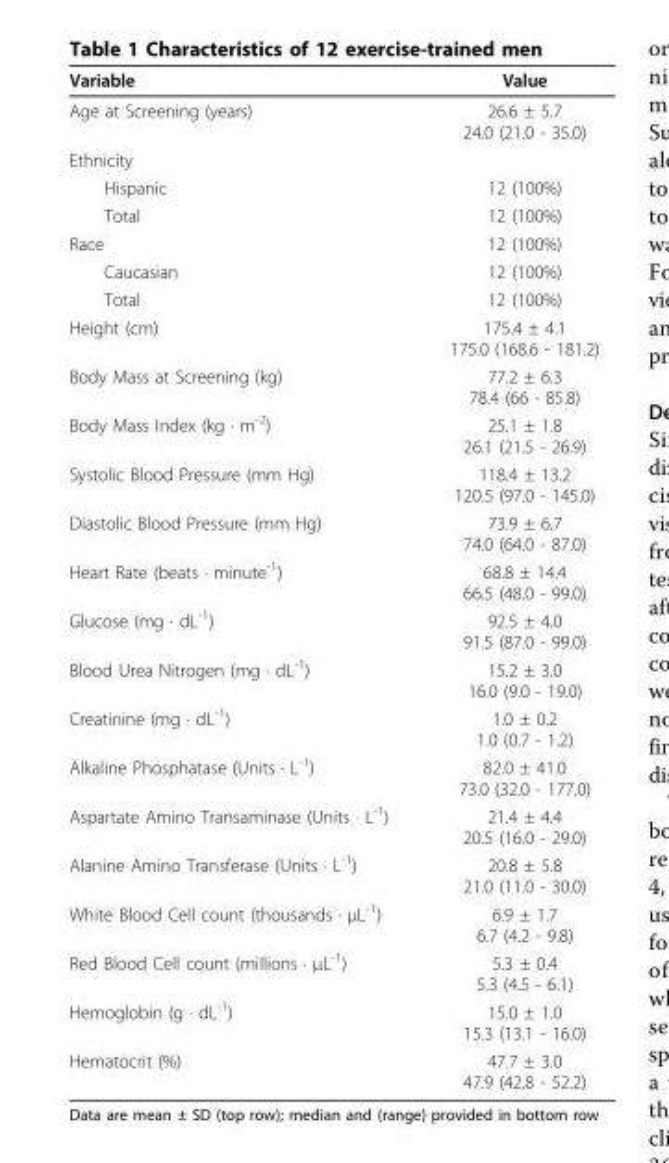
<table><thead><tr><td>Variable</td><td>Value</td></tr></thead><tbody><tr><td>Age at Screening (years)</td><td>26.6 ± 5.7 24.0 (21.0 - 35.0)</td></tr><tr><td colspan="2">Ethnicity</td></tr><tr><td>Hispanic</td><td>12 (100%)</td></tr><tr><td>Total</td><td>12 (100%)</td></tr><tr><td>Race</td><td>12 (100%)</td></tr><tr><td>Caucasian</td><td>12 (100%)</td></tr><tr><td>Total</td><td>12 (100%)</td></tr><tr><td>Height (cm)</td><td>175.4 ± 4.1 175.0 (168.6 - 181.2)</td></tr><tr><td>Body Mass at Screening (kg)</td><td>77.2 ± 6.3 78.4 (66 - 85.8)</td></tr><tr><td>Body Mass Index (kg ∙ m<sup>-2</sup>)</td><td>25.1 ± 1.8 26.1 (21.5 - 26.9)</td></tr><tr><td>Systolic Blood Pressure (mm Hg)</td><td>118.4 ± 13.2 120.5 (97.0 - 145.0)</td></tr><tr><td>Diastolic Blood Pressure (mm Hg)</td><td>73.9 ± 6.7 74.0 (64.0 - 87.0)</td></tr><tr><td>Heart Rate (beats ∙ minute<sup>-1</sup>)</td><td>68.8 ± 14.4 66.5 (48.0 - 99.0)</td></tr><tr><td>Glucose (mg ∙ dL<sup>-1</sup>)</td><td>92.5 ± 4.0 91.5 (87.0 - 99.0)</td></tr><tr><td>Blood Urea Nitrogen (mg ∙ dL<sup>-1</sup>)</td><td>15.2 ± 3.0 16.0 (9.0 - 19.0)</td></tr><tr><td>Creatinine (mg ∙ dL<sup>-1</sup>)</td><td>1.0 ± 0.2 1.0 (0.7 - 1.2)</td></tr><tr><td>Alkaline Phosphatase (Units ∙ L<sup>-1</sup>)</td><td>82.0 ± 41.0 73.0 (32.0 - 177.0)</td></tr><tr><td>Aspartate Amino Transaminase (Units ∙ L<sup>-1</sup>)</td><td>21.4 ± 4.4 20.5 (16.0 - 29.0)</td></tr><tr><td>Alanine Amino Transferase (Units ∙ L<sup>-1</sup>)</td><td>20.8 ± 5.8 21.0 (11.0 - 30.0)</td></tr><tr><td>White Blood Cell count (thousands ∙ μL<sup>-1</sup>)</td><td>6.9 ± 1.7 6.7 (4.2 - 9.8)</td></tr><tr><td>Red Blood Cell count (millions ∙ μL<sup>-1</sup>)</td><td>5.3 ± 0.4 5.3 (4.5 - 6.1)</td></tr><tr><td>Hemoglobin (g ∙ dL<sup>-1</sup>)</td><td>15.0 ± 1.0 15.3 (13.1 - 16.0)</td></tr><tr><td>Hematocrit (%)</td><td>47.7 ± 3.0 47.9 (42.8 - 52.2)</td></tr></tbody></table>